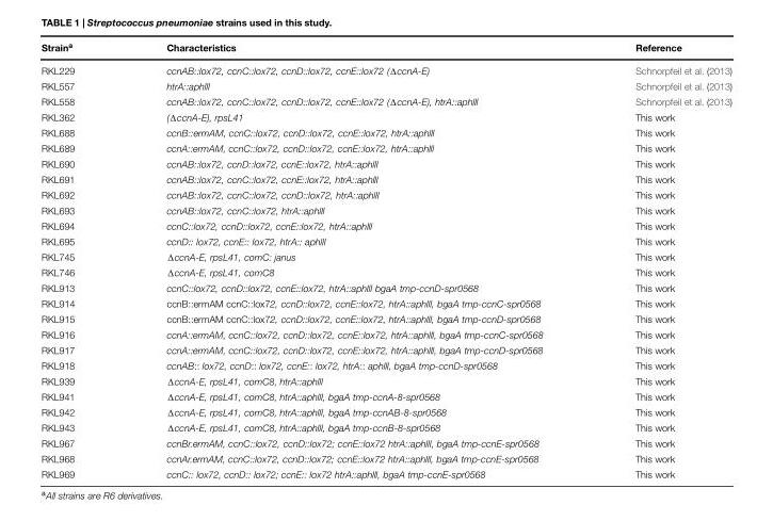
<table><thead><tr><td>Strain<sup>a</sup></td><td>Characteristics</td><td>Reference</td></tr></thead><tbody><tr><td>RKL229</td><td>ccnAB::lox72, ccnC::lox72, ccnD::lox72, ccnE::lox72 (ΔccnA-E)</td><td>Schnorpfeil et al. (2013)</td></tr><tr><td>RKL557</td><td>htrA::aphlll</td><td>Schnorpfeil et al. (2013)</td></tr><tr><td>RKL558</td><td>ccnAB::lox72, ccnC::lox72, ccnD::lox72, ccnE::lox72 (ΔccnA-E), htrA::aphlll</td><td>Schnorpfeil et al. (2013)</td></tr><tr><td>RKL362</td><td>(ΔccnA-E), rpsL41</td><td>This work</td></tr><tr><td>RKL688</td><td>ccnB::ermAM, ccnC::lox72, ccnD::lox72, ccnE::lox72, htrA::aphlll</td><td>This work</td></tr><tr><td>RKL689</td><td>ccnA::ermAM, ccnC::lox72, ccnD::lox72, ccnE::lox72, htrA::aphlll</td><td>This work</td></tr><tr><td>RKL690</td><td>ccnAB::lox72, ccnD::lox72, ccnE::lox72, htrA::aphlll</td><td>This work</td></tr><tr><td>RKL691</td><td>ccnAB::lox72, ccnC::lox72, ccnE::lox72, htrA::aphlll</td><td>This work</td></tr><tr><td>RKL692</td><td>ccnAB::lox72, ccnC::lox72, ccnD::lox72, htrA::aphlll</td><td>This work</td></tr><tr><td>RKL693</td><td>ccnAB::lox72, ccnC::lox72, htrA::aphlll</td><td>This work</td></tr><tr><td>RKL694</td><td>ccnC::lox72, ccnD::lox72, ccnE::lox72, htrA::aphlll</td><td>This work</td></tr><tr><td>RKL695</td><td>ccnD:: lox72, ccnE:: lox72, htrA:: aphlll</td><td>This work</td></tr><tr><td>RKL745</td><td>ΔccnA-E, rpsL41, comC: janus</td><td>This work</td></tr><tr><td>RKL746</td><td>ΔccnA-E, rpsL41, comC8</td><td>This work</td></tr><tr><td>RKL913</td><td>ccnC::lox72, ccnD::lox72, ccnE::lox72, htrA::aphlll bgaA tmp-ccnD-spr0568</td><td>This work</td></tr><tr><td>RKL914</td><td>ccnB::ermAM ccnC::lox72, ccnD::lox72, ccnE::lox72, htrA::aphlll, bgaA tmp-ccnC-spr0568</td><td>This work</td></tr><tr><td>RKL915</td><td>ccnB::ermAM ccnC::lox72, ccnD::lox72, ccnE::lox72, htrA::aphlll, bgaA tmp-ccnD-spr0568</td><td>This work</td></tr><tr><td>RKL916</td><td>ccnA::ermAM, ccnC::lox72, ccnD::lox72, ccnE::lox72, htrA::aphlll, bgaA tmp-ccnC-spr0568</td><td>This work</td></tr><tr><td>RKL917</td><td>ccnA::ermAM, ccnC::lox72, ccnD::lox72, ccnE::lox72, htrA::aphlll, bgaA tmp-ccnD-spr0568</td><td>This work</td></tr><tr><td>RKL918</td><td>ccnAB:: lox72, ccnD:: lox72, ccnE:: lox72, htrA:: aphlll, bgaA tmp-ccnD-spr0568</td><td>This work</td></tr><tr><td>RKL939</td><td>ΔccnA-E, rpsL41, comC8, htrA::aphlll</td><td>This work</td></tr><tr><td>RKL941</td><td>ΔccnA-E, rpsL41, comC8, htrA::aphlll, bgaA tmp-ccnA-8-spr0568</td><td>This work</td></tr><tr><td>RKL942</td><td>ΔccnA-E, rpsL41, comC8, htrA::aphlll, bgaA tmp-ccnAB-8-spr0568</td><td>This work</td></tr><tr><td>RKL943</td><td>ΔccnA-E, rpsL41, comC8, htrA::aphlll, bgaA tmp-ccnB-8-spr0568</td><td>This work</td></tr><tr><td>RKL967</td><td>ccnBr.ermAM, ccnC::lox72, ccnD::lox72; ccnE::lox72 htrA::aphlll, bgaA tmp-ccnE-spr0568</td><td>This work</td></tr><tr><td>RKL968</td><td>ccnAr.ermAM, ccnC::lox72, ccnD::lox72; ccnE::lox72 htrA::aphlll, bgaA tmp-ccnE-spr0568</td><td>This work</td></tr><tr><td>RKL969</td><td>ccnC:: lox72, ccnD:: lox72; ccnE:: lox72 htrA::aphlll, bgaA tmp-ccnE-spr0568</td><td>This work</td></tr></tbody></table>